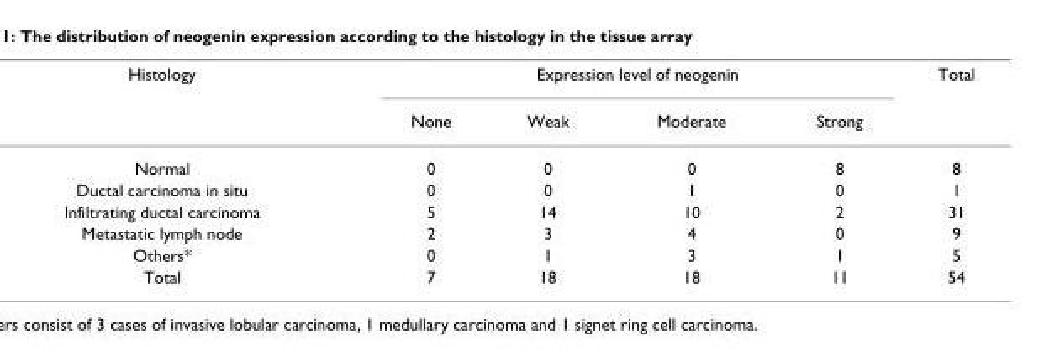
<table><thead><tr><td rowspan="2">Histology</td><td colspan="4">Expression level of neogenin</td><td rowspan="2">Total</td></tr><tr><td>None</td><td>Weak</td><td>Moderate</td><td>Strong</td></tr></thead><tbody><tr><td>Normal</td><td>0</td><td>0</td><td>0</td><td>8</td><td>8</td></tr><tr><td>Ductal carcinoma in situ</td><td>0</td><td>0</td><td>1</td><td>0</td><td>1</td></tr><tr><td>Infiltrating ductal carcinoma</td><td>5</td><td>14</td><td>10</td><td>2</td><td>31</td></tr><tr><td>Metastatic lymph node</td><td>2</td><td>3</td><td>4</td><td>0</td><td>9</td></tr><tr><td>Others*</td><td>0</td><td>1</td><td>3</td><td>1</td><td>5</td></tr><tr><td>Total</td><td>7</td><td>18</td><td>18</td><td>11</td><td>54</td></tr></tbody></table>